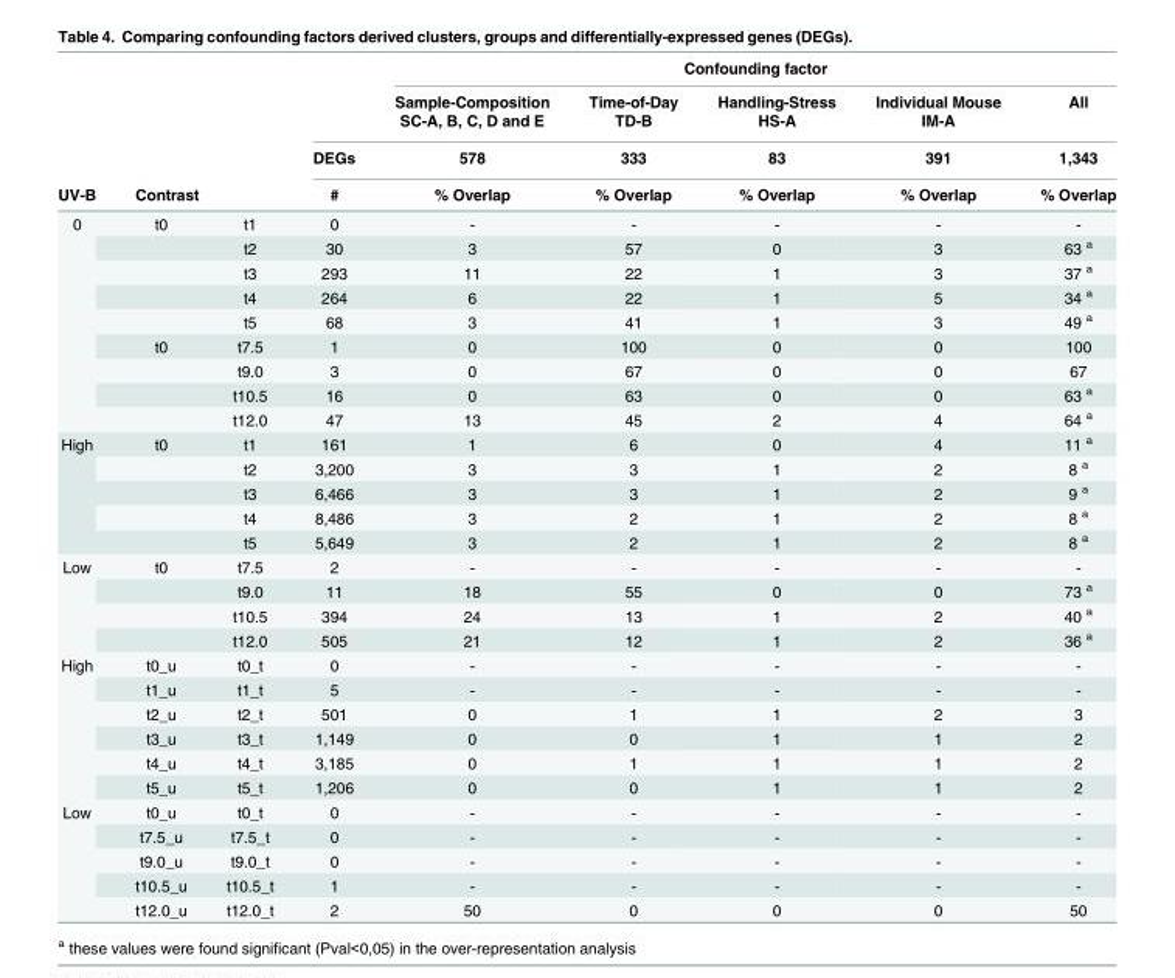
<table><thead><tr><td rowspan="5">UV-B</td><td rowspan="4"></td><td rowspan="4"></td><td rowspan="5">DEGs #</td><td colspan="5">Confounding factor</td></tr><tr><td rowspan="4">Sample-Composition SC-A, B, C, D and E 578 % Overlap</td><td rowspan="4">Time-of-Day TD-B 333 % Overlap</td><td rowspan="4">Handling-Stress HS-A 83 % Overlap</td><td rowspan="4">Individual Mouse IM-A 391 % Overlap</td><td rowspan="4">All 1,343 % Overlap</td></tr><tr></tr><tr></tr><tr><td colspan="2">Contrast</td></tr></thead><tbody><tr><td rowspan="9">0</td><td>t0</td><td>t1</td><td>0</td><td>-</td><td>-</td><td>-</td><td>-</td><td>-</td></tr><tr><td></td><td>t2</td><td>30</td><td>3</td><td>57</td><td>0</td><td>3</td><td>63 <sup>a</sup></td></tr><tr><td></td><td>t3</td><td>293</td><td>11</td><td>22</td><td>1</td><td>3</td><td>37 <sup>a</sup></td></tr><tr><td></td><td>t4</td><td>264</td><td>6</td><td>22</td><td>1</td><td>5</td><td>34 <sup>a</sup></td></tr><tr><td></td><td>t5</td><td>68</td><td>3</td><td>41</td><td>1</td><td>3</td><td>49 <sup>a</sup></td></tr><tr><td>t0</td><td>t7.5</td><td>1</td><td>0</td><td>100</td><td>0</td><td>0</td><td>100</td></tr><tr><td></td><td>t9.0</td><td>3</td><td>0</td><td>67</td><td>0</td><td>0</td><td>67</td></tr><tr><td></td><td>t10.5</td><td>16</td><td>0</td><td>63</td><td>0</td><td>0</td><td>63 <sup>a</sup></td></tr><tr><td></td><td>t12.0</td><td>47</td><td>13</td><td>45</td><td>2</td><td>4</td><td>64 <sup>a</sup></td></tr><tr><td rowspan="5">High</td><td>t0</td><td>t1</td><td>161</td><td>1</td><td>6</td><td>0</td><td>4</td><td>11 <sup>a</sup></td></tr><tr><td></td><td>t2</td><td>3,200</td><td>3</td><td>3</td><td>1</td><td>2</td><td>8 <sup>a</sup></td></tr><tr><td></td><td>t3</td><td>6,466</td><td>3</td><td>3</td><td>1</td><td>2</td><td>9 <sup>a</sup></td></tr><tr><td></td><td>t4</td><td>8,486</td><td>3</td><td>2</td><td>1</td><td>2</td><td>8 <sup>a</sup></td></tr><tr><td></td><td>t5</td><td>5,649</td><td>3</td><td>2</td><td>1</td><td>2</td><td>8 <sup>a</sup></td></tr><tr><td rowspan="4">Low</td><td>t0</td><td>t7.5</td><td>2</td><td>-</td><td>-</td><td>-</td><td>-</td><td>-</td></tr><tr><td></td><td>t9.0</td><td>11</td><td>18</td><td>55</td><td>0</td><td>0</td><td>73 <sup>a</sup></td></tr><tr><td></td><td>t10.5</td><td>394</td><td>24</td><td>13</td><td>1</td><td>2</td><td>40 <sup>a</sup></td></tr><tr><td></td><td>t12.0</td><td>505</td><td>21</td><td>12</td><td>1</td><td>2</td><td>36 <sup>a</sup></td></tr><tr><td rowspan="6">High</td><td>t0_u</td><td>t0_t</td><td>0</td><td>-</td><td>-</td><td>-</td><td>-</td><td>-</td></tr><tr><td>t1_u</td><td>t1_t</td><td>5</td><td>-</td><td>-</td><td>-</td><td>-</td><td>-</td></tr><tr><td>t2_u</td><td>t2_t</td><td>501</td><td>0</td><td>1</td><td>1</td><td>2</td><td>3</td></tr><tr><td>t3_u</td><td>t3_t</td><td>1,149</td><td>0</td><td>0</td><td>1</td><td>1</td><td>2</td></tr><tr><td>t4_u</td><td>t4_t</td><td>3,185</td><td>0</td><td>1</td><td>1</td><td>1</td><td>2</td></tr><tr><td>t5_u</td><td>t5_t</td><td>1,206</td><td>0</td><td>0</td><td>1</td><td>1</td><td>2</td></tr><tr><td rowspan="5">Low</td><td>t0_u</td><td>t0_t</td><td>0</td><td>-</td><td>-</td><td>-</td><td>-</td><td>-</td></tr><tr><td>t7.5_u</td><td>t7.5_t</td><td>0</td><td>-</td><td>-</td><td>-</td><td>-</td><td>-</td></tr><tr><td>t9.0_u</td><td>t9.0_t</td><td>0</td><td>-</td><td>-</td><td>-</td><td>-</td><td>-</td></tr><tr><td>t10.5_u</td><td>t10.5_t</td><td>1</td><td>-</td><td>-</td><td>-</td><td>-</td><td>-</td></tr><tr><td>t12.0_u</td><td>t12.0_t</td><td>2</td><td>50</td><td>0</td><td>0</td><td>0</td><td>50</td></tr></tbody></table>